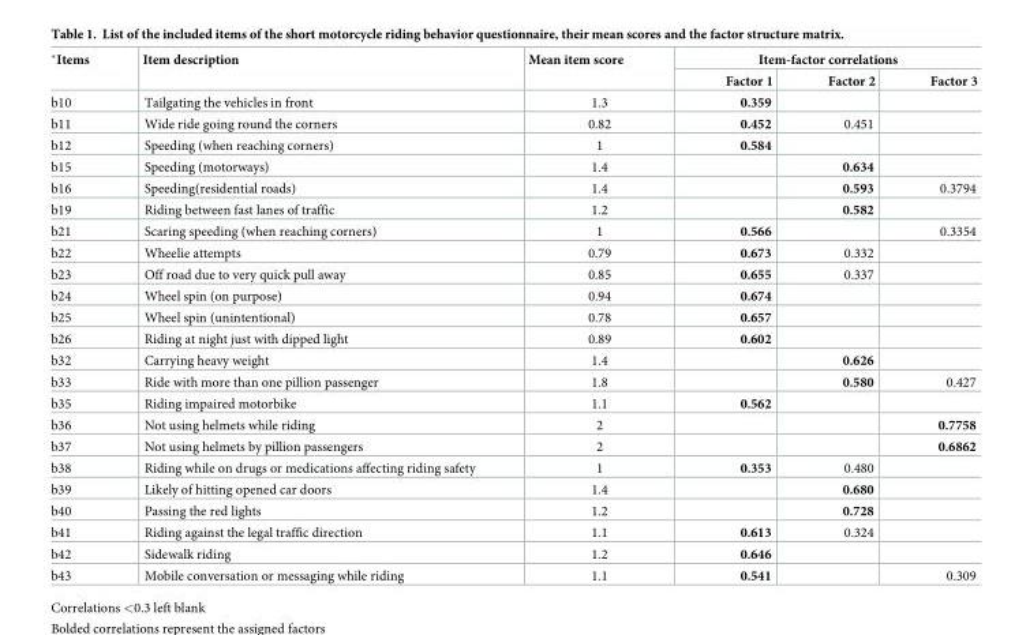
<table><thead><tr><td rowspan="2">*Items</td><td rowspan="2">Item description</td><td rowspan="2">Mean item score</td><td colspan="3">Item-factor correlations</td></tr><tr><td>Factor 1</td><td>Factor 2</td><td>Factor 3</td></tr></thead><tbody><tr><td>b10</td><td>Tailgating the vehicles in front</td><td>1.3</td><td>0.359</td><td></td><td></td></tr><tr><td>b11</td><td>Wide ride going round the corners</td><td>0.82</td><td>0.452</td><td>0.451</td><td></td></tr><tr><td>b12</td><td>Speeding (when reaching corners)</td><td>1</td><td>0.584</td><td></td><td></td></tr><tr><td>b15</td><td>Speeding (motorways)</td><td>1.4</td><td></td><td>0.634</td><td></td></tr><tr><td>b16</td><td>Speeding(residential roads)</td><td>1.4</td><td></td><td>0.593</td><td>0.3794</td></tr><tr><td>b19</td><td>Riding between fast lanes of traffic</td><td>1.2</td><td></td><td>0.582</td><td></td></tr><tr><td>b21</td><td>Scaring speeding (when reaching corners)</td><td>1</td><td>0.566</td><td></td><td>0.3354</td></tr><tr><td>b22</td><td>Wheelie attempts</td><td>0.79</td><td>0.673</td><td>0.332</td><td></td></tr><tr><td>b23</td><td>Off road due to very quick pull away</td><td>0.85</td><td>0.655</td><td>0.337</td><td></td></tr><tr><td>b24</td><td>Wheel spin (on purpose)</td><td>0.94</td><td>0.674</td><td></td><td></td></tr><tr><td>b25</td><td>Wheel spin (unintentional)</td><td>0.78</td><td>0.657</td><td></td><td></td></tr><tr><td>b26</td><td>Riding at night just with dipped light</td><td>0.89</td><td>0.602</td><td></td><td></td></tr><tr><td>b32</td><td>Carrying heavy weight</td><td>1.4</td><td></td><td>0.626</td><td></td></tr><tr><td>b33</td><td>Ride with more than one pillion passenger</td><td>1.8</td><td></td><td>0.580</td><td>0.427</td></tr><tr><td>b35</td><td>Riding impaired motorbike</td><td>1.1</td><td>0.562</td><td></td><td></td></tr><tr><td>b36</td><td>Not using helmets while riding</td><td>2</td><td></td><td></td><td>0.7758</td></tr><tr><td>b37</td><td>Not using helmets by pillion passengers</td><td>2</td><td></td><td></td><td>0.6862</td></tr><tr><td>b38</td><td>Riding while on drugs or medications affecting riding safety</td><td>1</td><td>0.353</td><td>0.480</td><td></td></tr><tr><td>b39</td><td>Likely of hitting opened car doors</td><td>1.4</td><td></td><td>0.680</td><td></td></tr><tr><td>b40</td><td>Passing the red lights</td><td>1.2</td><td></td><td>0.728</td><td></td></tr><tr><td>b41</td><td>Riding against the legal traffic direction</td><td>1.1</td><td>0.613</td><td>0.324</td><td></td></tr><tr><td>b42</td><td>Sidewalk riding</td><td>1.2</td><td>0.646</td><td></td><td></td></tr><tr><td>b43</td><td>Mobile conversation or messaging while riding</td><td>1.1</td><td>0.541</td><td></td><td>0.309</td></tr></tbody></table>